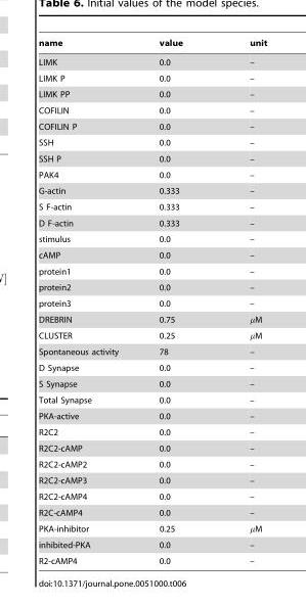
<table><thead><tr><td>name</td><td>value</td><td>unit</td></tr></thead><tbody><tr><td>LIMK</td><td>0.0</td><td>–</td></tr><tr><td>LIMK P</td><td>0.0</td><td>–</td></tr><tr><td>LIMK PP</td><td>0.0</td><td>–</td></tr><tr><td>COFILIN</td><td>0.0</td><td>–</td></tr><tr><td>COFILIN P</td><td>0.0</td><td>–</td></tr><tr><td>SSH</td><td>0.0</td><td>–</td></tr><tr><td>SSH P</td><td>0.0</td><td>–</td></tr><tr><td>PAK4</td><td>0.0</td><td>–</td></tr><tr><td>G-actin</td><td>0.333</td><td>–</td></tr><tr><td>S F-actin</td><td>0.333</td><td>–</td></tr><tr><td>D F-actin</td><td>0.333</td><td>–</td></tr><tr><td>stimulus</td><td>0.0</td><td>–</td></tr><tr><td>cAMP</td><td>0.0</td><td>–</td></tr><tr><td>protein1</td><td>0.0</td><td>–</td></tr><tr><td>protein2</td><td>0.0</td><td>–</td></tr><tr><td>protein3</td><td>0.0</td><td>–</td></tr><tr><td>DREBRIN</td><td>0.75</td><td>mM</td></tr><tr><td>CLUSTER</td><td>0.25</td><td>mM</td></tr><tr><td>Spontaneous activity</td><td>78</td><td>–</td></tr><tr><td>D Synapse</td><td>0.0</td><td>–</td></tr><tr><td>S Synapse</td><td>0.0</td><td>–</td></tr><tr><td>Total Synapse</td><td>0.0</td><td>–</td></tr><tr><td>PKA-active</td><td>0.0</td><td>–</td></tr><tr><td>R2C2</td><td>0.0</td><td>–</td></tr><tr><td>R2C2-cAMP</td><td>0.0</td><td>–</td></tr><tr><td>R2C2-cAMP2</td><td>0.0</td><td>–</td></tr><tr><td>R2C2-cAMP3</td><td>0.0</td><td>–</td></tr><tr><td>R2C2-cAMP4</td><td>0.0</td><td>–</td></tr><tr><td>R2C-cAMP4</td><td>0.0</td><td>–</td></tr><tr><td>PKA-inhibitor</td><td>0.25</td><td>mM</td></tr><tr><td>inhibited-PKA</td><td>0.0</td><td>–</td></tr><tr><td>R2-cAMP4</td><td>0.0</td><td>–</td></tr></tbody></table>